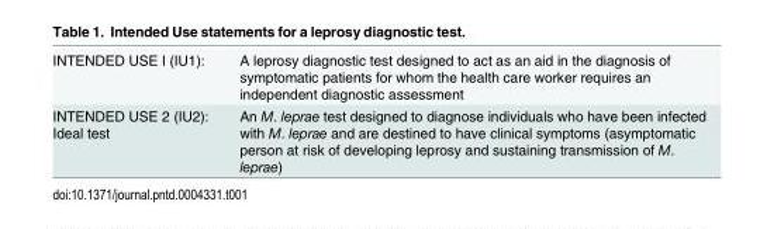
<table><tbody><tr><td>INTENDED USE I (IU1):</td><td>A leprosy diagnostic test designed to act as an aid in the diagnosis of symptomatic patients for whom the health care worker requires an independent diagnostic assessment</td></tr><tr><td>INTENDED USE 2 (IU2): Ideal test</td><td>An M. leprae test designed to diagnose individuals who have been infected with M. leprae and are destined to have clinical symptoms (asymptomatic person at risk of developing leprosy and sustaining transmission of M. leprae)</td></tr></tbody></table>